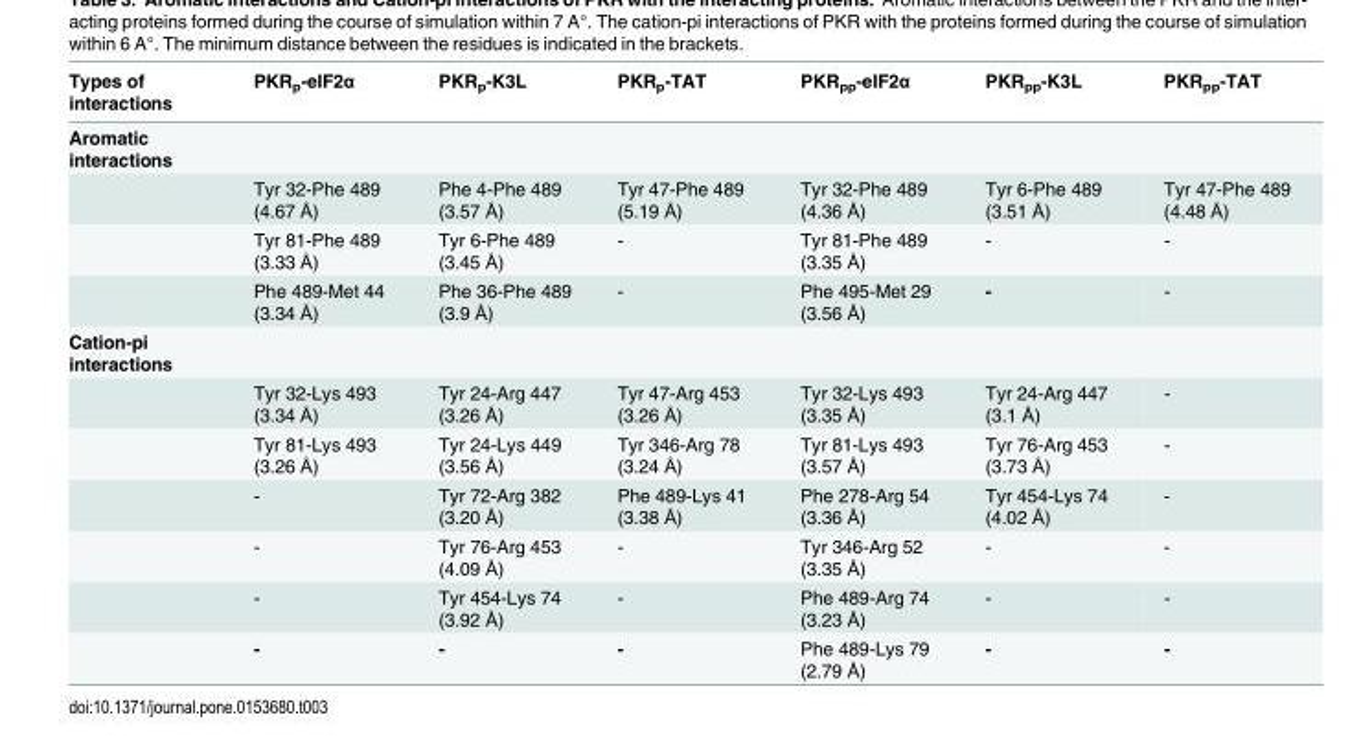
<table><thead><tr><td>Types of interactions</td><td>PKR<sub>p</sub>-eIF2α</td><td>PKR<sub>p</sub>-K3L</td><td>PKR<sub>p</sub>-TAT</td><td>PKR<sub>pp</sub>-eIF2α</td><td>PKR<sub>pp</sub>-K3L</td><td>PKR<sub>pp</sub>-TAT</td></tr></thead><tbody><tr><td colspan="7">Aromatic interactions</td></tr><tr><td></td><td>Tyr 32-Phe 489 (4.67 Å)</td><td>Phe 4-Phe 489 (3.57 Å)</td><td>Tyr 47-Phe 489 (5.19 Å)</td><td>Tyr 32-Phe 489 (4.36 Å)</td><td>Tyr 6-Phe 489 (3.51 Å)</td><td>Tyr 47-Phe 489 (4.48 Å)</td></tr><tr><td></td><td>Tyr 81-Phe 489 (3.33 Å)</td><td>Tyr 6-Phe 489 (3.45 Å)</td><td>-</td><td>Tyr 81-Phe 489 (3.35 Å)</td><td>-</td><td>-</td></tr><tr><td></td><td>Phe 489-Met 44 (3.34 Å)</td><td>Phe 36-Phe 489 (3.9 Å)</td><td>-</td><td>Phe 495-Met 29 (3.56 Å)</td><td>-</td><td>-</td></tr><tr><td colspan="7">Cation-pi interactions</td></tr><tr><td></td><td>Tyr 32-Lys 493 (3.34 Å)</td><td>Tyr 24-Arg 447 (3.26 Å)</td><td>Tyr 47-Arg 453 (3.26 Å)</td><td>Tyr 32-Lys 493 (3.35 Å)</td><td>Tyr 24-Arg 447 (3.1 Å)</td><td>-</td></tr><tr><td></td><td>Tyr 81-Lys 493 (3.26 Å)</td><td>Tyr 24-Lys 449 (3.56 Å)</td><td>Tyr 346-Arg 78 (3.24 Å)</td><td>Tyr 81-Lys 493 (3.57 Å)</td><td>Tyr 76-Arg 453 (3.73 Å)</td><td>-</td></tr><tr><td></td><td>-</td><td>Tyr 72-Arg 382 (3.20 Å)</td><td>Phe 489-Lys 41 (3.38 Å)</td><td>Phe 278-Arg 54 (3.36 Å)</td><td>Tyr 454-Lys 74 (4.02 Å)</td><td>-</td></tr><tr><td></td><td>-</td><td>Tyr 76-Arg 453 (4.09 Å)</td><td>-</td><td>Tyr 346-Arg 52 (3.35 Å)</td><td>-</td><td>-</td></tr><tr><td></td><td>-</td><td>Tyr 454-Lys 74 (3.92 Å)</td><td>-</td><td>Phe 489-Arg 74 (3.23 Å)</td><td>-</td><td>-</td></tr><tr><td></td><td>-</td><td>-</td><td>-</td><td>Phe 489-Lys 79 (2.79 Å)</td><td>-</td><td>-</td></tr></tbody></table>